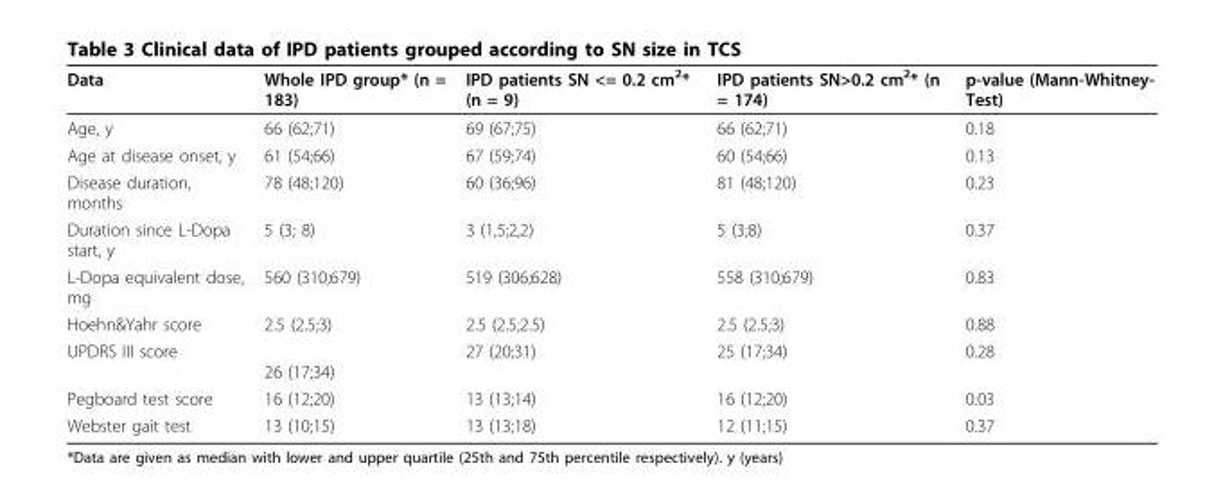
<table><thead><tr><td>Data</td><td>Whole IPD group* (n = 183)</td><td>IPD patients SN &lt;= 0.2 cm<sup>2</sup>* (n = 9)</td><td>IPD patients SN&gt;0.2 cm<sup>2</sup>* (n = 174)</td><td>p-value (Mann-Whitney- Test)</td></tr></thead><tbody><tr><td>Age, y</td><td>66 (62;71)</td><td>69 (67;75)</td><td>66 (62;71)</td><td>0.18</td></tr><tr><td>Age at disease onset, y</td><td>61 (54;66)</td><td>67 (59;74)</td><td>60 (54;66)</td><td>0.13</td></tr><tr><td>Disease duration, months</td><td>78 (48;120)</td><td>60 (36;96)</td><td>81 (48;120)</td><td>0.23</td></tr><tr><td>Duration since L-Dopa start, y</td><td>5 (3; 8)</td><td>3 (1,5;2,2)</td><td>5 (3;8)</td><td>0.37</td></tr><tr><td>L-Dopa equivalent dose, mg</td><td>560 (310;679)</td><td>519 (306;628)</td><td>558 (310;679)</td><td>0.83</td></tr><tr><td>Hoehn&amp;Yahr score</td><td>2.5 (2.5;3)</td><td>2.5 (2.5;2.5)</td><td>2.5 (2.5;3)</td><td>0.88</td></tr><tr><td>UPDRS III score</td><td>26 (17;34)</td><td>27 (20;31)</td><td>25 (17;34)</td><td>0.28</td></tr><tr><td>Pegboard test score</td><td>16 (12;20)</td><td>13 (13;14)</td><td>16 (12;20)</td><td>0.03</td></tr><tr><td>Webster gait test</td><td>13 (10;15)</td><td>13 (13;18)</td><td>12 (11;15)</td><td>0.37</td></tr></tbody></table>